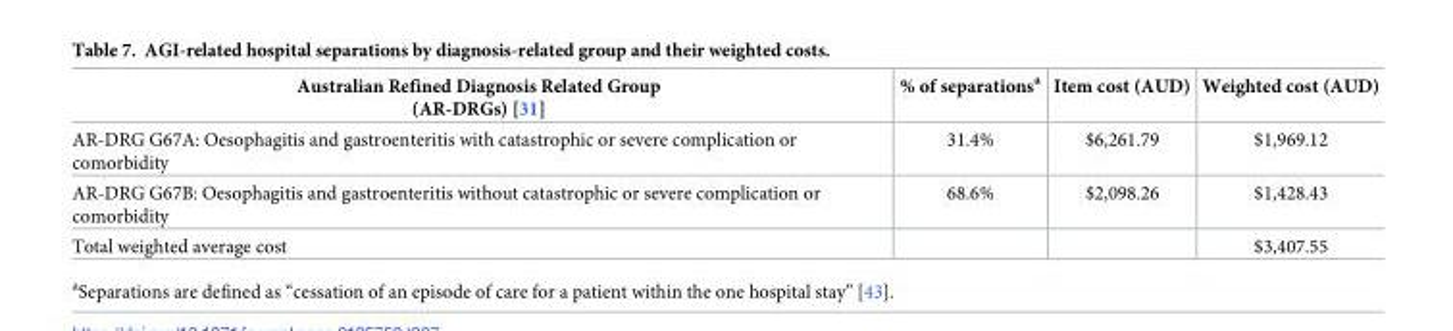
<table><thead><tr><td>Australian Refined Diagnosis Related Group (AR-DRGs) [31]</td><td>% of separations<sup>a</sup></td><td>Item cost (AUD)</td><td>Weighted cost (AUD)</td></tr></thead><tbody><tr><td>AR-DRG G67A: Oesophagitis and gastroenteritis with catastrophic or severe complication or comorbidity</td><td>31.4%</td><td>$6,261.79</td><td>$1,969.12</td></tr><tr><td>AR-DRG G67B: Oesophagitis and gastroenteritis without catastrophic or severe complication or comorbidity</td><td>68.6%</td><td>$2,098.26</td><td>$1,428.43</td></tr><tr><td>Total weighted average cost</td><td></td><td></td><td>$3,407.55</td></tr></tbody></table>